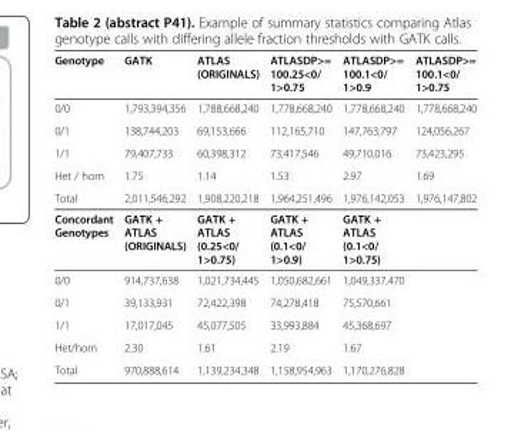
<table><tbody><tr><td>Genotype</td><td>GATK</td><td>ATLAS (ORIGINALS)</td><td>ATLASDP&gt;= 100.25&lt;0/ 1&gt;0.75</td><td>ATLASDP&gt;= 100.1&lt;0/ 1&gt;0.9</td><td>ATLASDP&gt;= 100.1&lt;0/ 1&gt;0.75</td></tr><tr><td>0/0</td><td>1,793,394,356</td><td>1,788,668,240</td><td>1,778,668,240</td><td>1,778,668,240</td><td>1,778,668,240</td></tr><tr><td>0/1</td><td>138,744,203</td><td>69,153,666</td><td>112,165,710</td><td>147,763,797</td><td>124,056,267</td></tr><tr><td>1/1</td><td>79,407,733</td><td>60,398,312</td><td>73,417,546</td><td>49,710,016</td><td>73,423,295</td></tr><tr><td>Het / hom</td><td>1.75</td><td>1.14</td><td>1.53</td><td>2.97</td><td>1.69</td></tr><tr><td>Total</td><td>2,011,546,292</td><td>1,908,220,218</td><td>1,964,251,496</td><td>1,976,142,053</td><td>1,976,147,802</td></tr><tr><td>Concordant Genotypes</td><td>GATK + ATLAS (ORIGINALS)</td><td>GATK + ATLAS (0.25&lt;0/ 1&gt;0.75)</td><td>GATK + ATLAS (0.1&lt;0/ 1&gt;0.9)</td><td>GATK + ATLAS (0.1&lt;0/ 1&gt;0.75)</td><td></td></tr><tr><td>0/0</td><td>914,737,638</td><td>1,021,734,445</td><td>1,050,682,661</td><td>1,049,337,470</td><td></td></tr><tr><td>0/1</td><td>39,133,931</td><td>72,422,398</td><td>74,278,418</td><td>75,570,661</td><td></td></tr><tr><td>1/1</td><td>17,017,045</td><td>45,077,505</td><td>33,993,884</td><td>45,368,697</td><td></td></tr><tr><td>Het/hom</td><td>2.30</td><td>1.61</td><td>2.19</td><td>1.67</td><td></td></tr><tr><td>Total</td><td>970,888,614</td><td>1,139,234,348</td><td>1,158,954,963</td><td>1,170,276,828</td><td></td></tr></tbody></table>